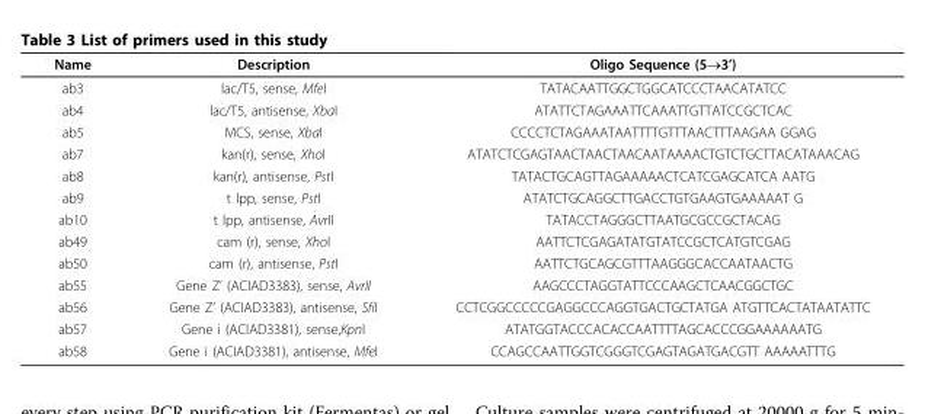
<table><thead><tr><td>Name</td><td>Description</td><td>Oligo Sequence (5→3’)</td></tr></thead><tbody><tr><td>ab3</td><td>lac/T5, sense, MfeI</td><td>TATACAATTGGCTGGCATCCCTAACATATCC</td></tr><tr><td>ab4</td><td>lac/T5, antisense, XbaI</td><td>ATATTCTAGAAATTCAAATTGTTATCCGCTCAC</td></tr><tr><td>ab5</td><td>MCS, sense, XbaI</td><td>CCCCTCTAGAAATAATTTTGTTTAACTTTAAGAA GGAG</td></tr><tr><td>ab7</td><td>kan(r), sense, XhoI</td><td>ATATCTCGAGTAACTAACTAACAATAAAACTGTCTGCTTACATAAACAG</td></tr><tr><td>ab8</td><td>kan(r), antisense, PstI</td><td>TATACTGCAGTTAGAAAAACTCATCGAGCATCA AATG</td></tr><tr><td>ab9</td><td>t lpp, sense, PstI</td><td>ATATCTGCAGGCTTGACCTGTGAAGTGAAAAAT G</td></tr><tr><td>ab10</td><td>t lpp, antisense, AvrII</td><td>TATACCTAGGGCTTAATGCGCCGCTACAG</td></tr><tr><td>ab49</td><td>cam (r), sense, XhoI</td><td>AATTCTCGAGATATGTATCCGCTCATGTCGAG</td></tr><tr><td>ab50</td><td>cam (r), antisense, PstI</td><td>AATTCTGCAGCGTTTAAGGGCACCAATAACTG</td></tr><tr><td>ab55</td><td>Gene Z’ (ACIAD3383), sense, AvrII</td><td>AAGCCCTAGGTATTCCCAAGCTCAACGGCTGC</td></tr><tr><td>ab56</td><td>Gene Z’ (ACIAD3383), antisense, SfiI</td><td>CCTCGGCCCCCGAGGCCCAGGTGACTGCTATGA ATGTTCACTATAATATTC</td></tr><tr><td>ab57</td><td>Gene i (ACIAD3381), sense,KpnI</td><td>ATATGGTACCCACACCAATTTTAGCACCCGGAAAAAATG</td></tr><tr><td>ab58</td><td>Gene i (ACIAD3381), antisense, MfeI</td><td>CCAGCCAATTGGTCGGGTCGAGTAGATGACGTT AAAAATTTG</td></tr></tbody></table>